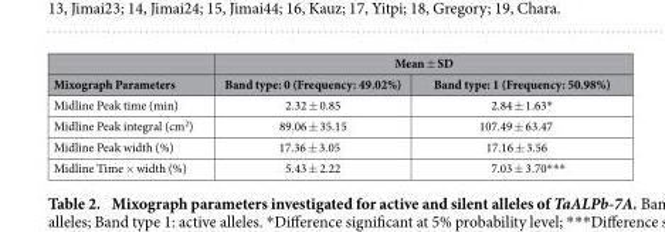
<table><thead><tr><td rowspan="2">Mixograph Parameters</td><td colspan="2">Mean ± SD</td></tr><tr><td>Band type: 0 (Frequency: 49.02%)</td><td>Band type: 1 (Frequency: 50.98%)</td></tr></thead><tbody><tr><td>Midline Peak time (min)</td><td>2.32 ± 0.85</td><td>2.84 ± 1.63*</td></tr><tr><td>Midline Peak integral (cm<sup>2</sup>)</td><td>89.06 ± 35.15</td><td>107.49 ± 63.47</td></tr><tr><td>Midline Peak width (%)</td><td>17.36 ± 3.05</td><td>17.16 ± 3.56</td></tr><tr><td>Midline Time × width (%)</td><td>5.43 ± 2.22</td><td>7.03 ± 3.70* * *</td></tr></tbody></table>